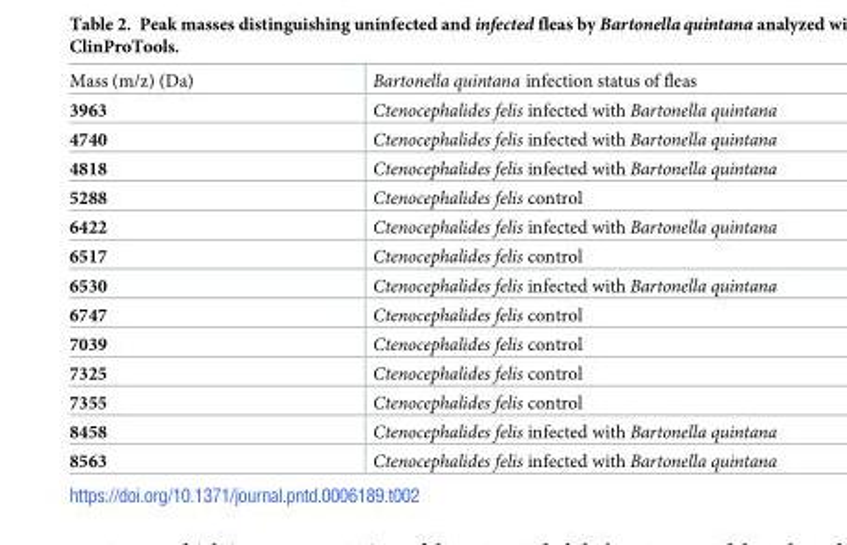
<table><tbody><tr><td>Mass (m/z) (Da)</td><td>Bartonella quintana infection status of fleas</td></tr><tr><td>3963</td><td>Ctenocephalides felis infected with Bartonella quintana</td></tr><tr><td>4740</td><td>Ctenocephalides felis infected with Bartonella quintana</td></tr><tr><td>4818</td><td>Ctenocephalides felis infected with Bartonella quintana</td></tr><tr><td>5288</td><td>Ctenocephalides felis control</td></tr><tr><td>6422</td><td>Ctenocephalides felis infected with Bartonella quintana</td></tr><tr><td>6517</td><td>Ctenocephalides felis control</td></tr><tr><td>6530</td><td>Ctenocephalides felis infected with Bartonella quintana</td></tr><tr><td>6747</td><td>Ctenocephalides felis control</td></tr><tr><td>7039</td><td>Ctenocephalides felis control</td></tr><tr><td>7325</td><td>Ctenocephalides felis control</td></tr><tr><td>7355</td><td>Ctenocephalides felis control</td></tr><tr><td>8458</td><td>Ctenocephalides felis infected with Bartonella quintana</td></tr><tr><td>8563</td><td>Ctenocephalides felis infected with Bartonella quintana</td></tr></tbody></table>